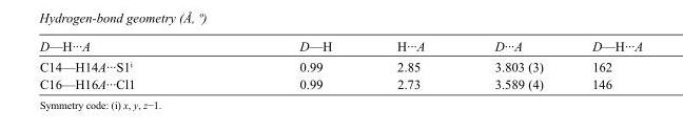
<table><tbody><tr><td>D—H···A</td><td>D—H</td><td>H···A</td><td>D···A</td><td>D—H···A</td></tr><tr><td>C14—H14A···S1<sup>i</sup></td><td>0.99</td><td>2.85</td><td>3.803 (3)</td><td>162</td></tr><tr><td>C16—H16A···Cl1</td><td>0.99</td><td>2.73</td><td>3.589 (4)</td><td>146</td></tr></tbody></table>